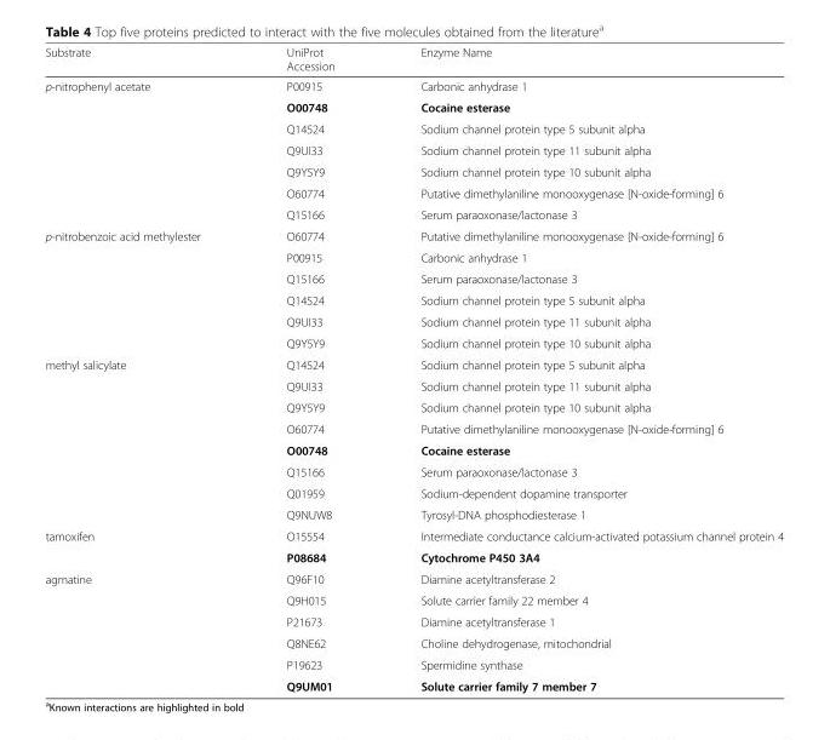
<table><thead><tr><td>Substrate</td><td>UniProt Accession</td><td>Enzyme Name</td></tr></thead><tbody><tr><td rowspan="7">p-nitrophenyl acetate</td><td>P00915</td><td>Carbonic anhydrase 1</td></tr><tr><td>O00748</td><td>Cocaine esterase</td></tr><tr><td>Q14524</td><td>Sodium channel protein type 5 subunit alpha</td></tr><tr><td>Q9UI33</td><td>Sodium channel protein type 11 subunit alpha</td></tr><tr><td>Q9Y5Y9</td><td>Sodium channel protein type 10 subunit alpha</td></tr><tr><td>O60774</td><td>Putative dimethylaniline monooxygenase [N-oxide-forming] 6</td></tr><tr><td>Q15166</td><td>Serum paraoxonase/lactonase 3</td></tr><tr><td rowspan="6">p-nitrobenzoic acid methylester</td><td>O60774</td><td>Putative dimethylaniline monooxygenase [N-oxide-forming] 6</td></tr><tr><td>P00915</td><td>Carbonic anhydrase 1</td></tr><tr><td>Q15166</td><td>Serum paraoxonase/lactonase 3</td></tr><tr><td>Q14524</td><td>Sodium channel protein type 5 subunit alpha</td></tr><tr><td>Q9UI33</td><td>Sodium channel protein type 11 subunit alpha</td></tr><tr><td>Q9Y5Y9</td><td>Sodium channel protein type 10 subunit alpha</td></tr><tr><td rowspan="8">methyl salicylate</td><td>Q14524</td><td>Sodium channel protein type 5 subunit alpha</td></tr><tr><td>Q9UI33</td><td>Sodium channel protein type 11 subunit alpha</td></tr><tr><td>Q9Y5Y9</td><td>Sodium channel protein type 10 subunit alpha</td></tr><tr><td>O60774</td><td>Putative dimethylaniline monooxygenase [N-oxide-forming] 6</td></tr><tr><td>O00748</td><td>Cocaine esterase</td></tr><tr><td>Q15166</td><td>Serum paraoxonase/lactonase 3</td></tr><tr><td>Q01959</td><td>Sodium-dependent dopamine transporter</td></tr><tr><td>Q9NUW8</td><td>Tyrosyl-DNA phosphodiesterase 1</td></tr><tr><td rowspan="2">tamoxifen</td><td>O15554</td><td>Intermediate conductance calcium-activated potassium channel protein 4</td></tr><tr><td>P08684</td><td>Cytochrome P450 3A4</td></tr><tr><td rowspan="6">agmatine</td><td>Q96F10</td><td>Diamine acetyltransferase 2</td></tr><tr><td>Q9H015</td><td>Solute carrier family 22 member 4</td></tr><tr><td>P21673</td><td>Diamine acetyltransferase 1</td></tr><tr><td>Q8NE62</td><td>Choline dehydrogenase, mitochondrial</td></tr><tr><td>P19623</td><td>Spermidine synthase</td></tr><tr><td>Q9UM01</td><td>Solute carrier family 7 member 7</td></tr></tbody></table>